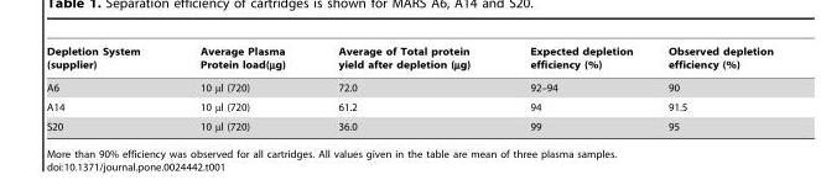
<table><thead><tr><td>Depletion System (supplier)</td><td>Average Plasma Protein load(µg)</td><td>Average of Total protein yield after depletion (µg)</td><td>Expected depletion efficiency (%)</td><td>Observed depletion efficiency (%)</td></tr></thead><tbody><tr><td>A6</td><td>10 µl (720)</td><td>72.0</td><td>92–94</td><td>90</td></tr><tr><td>A14</td><td>10 µl (720)</td><td>61.2</td><td>94</td><td>91.5</td></tr><tr><td>S20</td><td>10 µl (720)</td><td>36.0</td><td>99</td><td>95</td></tr></tbody></table>